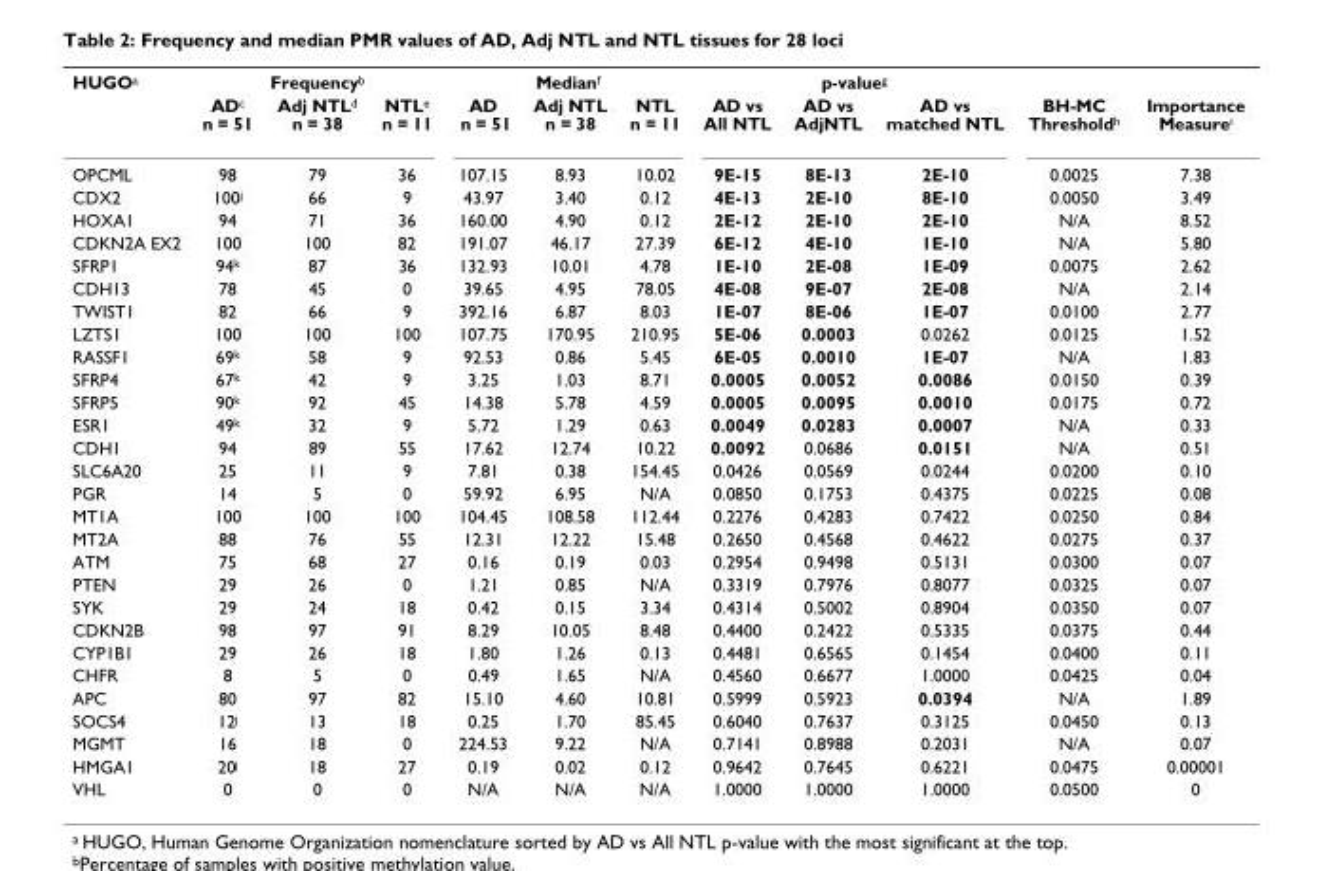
<table><tbody><tr><td rowspan="2">HUGO<sup>a</sup></td><td colspan="3">Frequency<sup>b</sup></td><td colspan="3">Median<sup>f</sup></td><td colspan="3">p-value<sup>g</sup></td><td></td><td></td></tr><tr><td>AD<sup>c</sup> n = 51</td><td>Adj NTL<sup>d</sup> n = 38</td><td>NTL<sup>e</sup> n = 11</td><td>AD n = 51</td><td>Adj NTL n = 38</td><td>NTL n = 11</td><td>AD vs All NTL</td><td>AD vs AdjNTL</td><td>AD vs matched NTL</td><td>BH-MC Threshold<sup>h</sup></td><td>Importance Measure<sup>i</sup></td></tr><tr><td>OPCML</td><td>98</td><td>79</td><td>36</td><td>107.15</td><td>8.93</td><td>10.02</td><td>9E-15</td><td>8E-13</td><td>2E-10</td><td>0.0025</td><td>7.38</td></tr><tr><td>CDX2</td><td>100<sup>j</sup></td><td>66</td><td>9</td><td>43.97</td><td>3.40</td><td>0.12</td><td>4E-13</td><td>2E-10</td><td>8E-10</td><td>0.0050</td><td>3.49</td></tr><tr><td>HOXA1</td><td>94</td><td>71</td><td>36</td><td>160.00</td><td>4.90</td><td>0.12</td><td>2E-12</td><td>2E-10</td><td>2E-10</td><td>N/A</td><td>8.52</td></tr><tr><td>CDKN2A EX2</td><td>100</td><td>100</td><td>82</td><td>191.07</td><td>46.17</td><td>27.39</td><td>6E-12</td><td>4E-10</td><td>1E-10</td><td>N/A</td><td>5.80</td></tr><tr><td>SFRP1</td><td>94<sup>k</sup></td><td>87</td><td>36</td><td>132.93</td><td>10.01</td><td>4.78</td><td>1E-10</td><td>2E-08</td><td>1E-09</td><td>0.0075</td><td>2.62</td></tr><tr><td>CDH13</td><td>78</td><td>45</td><td>0</td><td>39.65</td><td>4.95</td><td>78.05</td><td>4E-08</td><td>9E-07</td><td>2E-08</td><td>N/A</td><td>2.14</td></tr><tr><td>TWIST1</td><td>82</td><td>66</td><td>9</td><td>392.16</td><td>6.87</td><td>8.03</td><td>1E-07</td><td>8E-06</td><td>1E-07</td><td>0.0100</td><td>2.77</td></tr><tr><td>LZTS1</td><td>100</td><td>100</td><td>100</td><td>107.75</td><td>170.95</td><td>210.95</td><td>5E-06</td><td>0.0003</td><td>0.0262</td><td>0.0125</td><td>1.52</td></tr><tr><td>RASSF1</td><td>69<sup>k</sup></td><td>58</td><td>9</td><td>92.53</td><td>0.86</td><td>5.45</td><td>6E-05</td><td>0.0010</td><td>1E-07</td><td>N/A</td><td>1.83</td></tr><tr><td>SFRP4</td><td>67<sup>k</sup></td><td>42</td><td>9</td><td>3.25</td><td>1.03</td><td>8.71</td><td>0.0005</td><td>0.0052</td><td>0.0086</td><td>0.0150</td><td>0.39</td></tr><tr><td>SFRP5</td><td>90<sup>k</sup></td><td>92</td><td>45</td><td>14.38</td><td>5.78</td><td>4.59</td><td>0.0005</td><td>0.0095</td><td>0.0010</td><td>0.0175</td><td>0.72</td></tr><tr><td>ESR1</td><td>49<sup>k</sup></td><td>32</td><td>9</td><td>5.72</td><td>1.29</td><td>0.63</td><td>0.0049</td><td>0.0283</td><td>0.0007</td><td>N/A</td><td>0.33</td></tr><tr><td>CDH1</td><td>94</td><td>89</td><td>55</td><td>17.62</td><td>12.74</td><td>10.22</td><td>0.0092</td><td>0.0686</td><td>0.0151</td><td>N/A</td><td>0.51</td></tr><tr><td>SLC6A20</td><td>25</td><td>11</td><td>9</td><td>7.81</td><td>0.38</td><td>154.45</td><td>0.0426</td><td>0.0569</td><td>0.0244</td><td>0.0200</td><td>0.10</td></tr><tr><td>PGR</td><td>14</td><td>5</td><td>0</td><td>59.92</td><td>6.95</td><td>N/A</td><td>0.0850</td><td>0.1753</td><td>0.4375</td><td>0.0225</td><td>0.08</td></tr><tr><td>MT1A</td><td>100</td><td>100</td><td>100</td><td>104.45</td><td>108.58</td><td>112.44</td><td>0.2276</td><td>0.4283</td><td>0.7422</td><td>0.0250</td><td>0.84</td></tr><tr><td>MT2A</td><td>88</td><td>76</td><td>55</td><td>12.31</td><td>12.22</td><td>15.48</td><td>0.2650</td><td>0.4568</td><td>0.4622</td><td>0.0275</td><td>0.37</td></tr><tr><td>ATM</td><td>75</td><td>68</td><td>27</td><td>0.16</td><td>0.19</td><td>0.03</td><td>0.2954</td><td>0.9498</td><td>0.5131</td><td>0.0300</td><td>0.07</td></tr><tr><td>PTEN</td><td>29</td><td>26</td><td>0</td><td>1.21</td><td>0.85</td><td>N/A</td><td>0.3319</td><td>0.7976</td><td>0.8077</td><td>0.0325</td><td>0.07</td></tr><tr><td>SYK</td><td>29</td><td>24</td><td>18</td><td>0.42</td><td>0.15</td><td>3.34</td><td>0.4314</td><td>0.5002</td><td>0.8904</td><td>0.0350</td><td>0.07</td></tr><tr><td>CDKN2B</td><td>98</td><td>97</td><td>91</td><td>8.29</td><td>10.05</td><td>8.48</td><td>0.4400</td><td>0.2422</td><td>0.5335</td><td>0.0375</td><td>0.44</td></tr><tr><td>CYP1B1</td><td>29</td><td>26</td><td>18</td><td>1.80</td><td>1.26</td><td>0.13</td><td>0.4481</td><td>0.6565</td><td>0.1454</td><td>0.0400</td><td>0.11</td></tr><tr><td>CHFR</td><td>8</td><td>5</td><td>0</td><td>0.49</td><td>1.65</td><td>N/A</td><td>0.4560</td><td>0.6677</td><td>1.0000</td><td>0.0425</td><td>0.04</td></tr><tr><td>APC</td><td>80</td><td>97</td><td>82</td><td>15.10</td><td>4.60</td><td>10.81</td><td>0.5999</td><td>0.5923</td><td>0.0394</td><td>N/A</td><td>1.89</td></tr><tr><td>SOCS4</td><td>12<sup>j</sup></td><td>13</td><td>18</td><td>0.25</td><td>1.70</td><td>85.45</td><td>0.6040</td><td>0.7637</td><td>0.3125</td><td>0.0450</td><td>0.13</td></tr><tr><td>MGMT</td><td>16</td><td>18</td><td>0</td><td>224.53</td><td>9.22</td><td>N/A</td><td>0.7141</td><td>0.8988</td><td>0.2031</td><td>N/A</td><td>0.07</td></tr><tr><td>HMGA1</td><td>20<sup>j</sup></td><td>18</td><td>27</td><td>0.19</td><td>0.02</td><td>0.12</td><td>0.9642</td><td>0.7645</td><td>0.6221</td><td>0.0475</td><td>0.00001</td></tr><tr><td>VHL</td><td>0</td><td>0</td><td>0</td><td>N/A</td><td>N/A</td><td>N/A</td><td>1.0000</td><td>1.0000</td><td>1.0000</td><td>0.0500</td><td>0</td></tr></tbody></table>